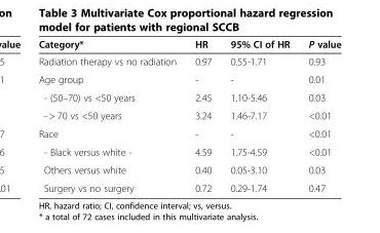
<table><thead><tr><td>Category*</td><td>HR</td><td>95% CI of HR</td><td>P value</td></tr></thead><tbody><tr><td>Radiation therapy vs no radiation</td><td>0.97</td><td>0.55-1.71</td><td>0.93</td></tr><tr><td>Age group</td><td>-</td><td>-</td><td>0.01</td></tr><tr><td>- (50–70) vs &lt;50 years</td><td>2.45</td><td>1.10-5.46</td><td>0.03</td></tr><tr><td>- &gt; 70 vs &lt;50 years</td><td>3.24</td><td>1.46-7.17</td><td>&lt;0.01</td></tr><tr><td>Race</td><td>-</td><td>-</td><td>&lt;0.01</td></tr><tr><td>- Black versus white -</td><td>4.59</td><td>1.75-4.59</td><td>&lt;0.01</td></tr><tr><td>Others versus white</td><td>0.40</td><td>0.05-3.10</td><td>0.03</td></tr><tr><td>Surgery vs no surgery</td><td>0.72</td><td>0.29-1.74</td><td>0.47</td></tr></tbody></table>